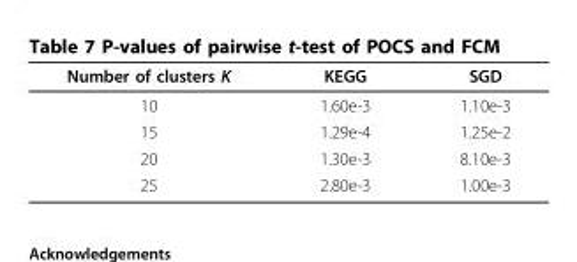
<table><thead><tr><td>Number of clusters K</td><td>KEGG</td><td>SGD</td></tr></thead><tbody><tr><td>10</td><td>1.60e-3</td><td>1.10e-3</td></tr><tr><td>15</td><td>1.29e-4</td><td>1.25e-2</td></tr><tr><td>20</td><td>1.30e-3</td><td>8.10e-3</td></tr><tr><td>25</td><td>2.80e-3</td><td>1.00e-3</td></tr></tbody></table>